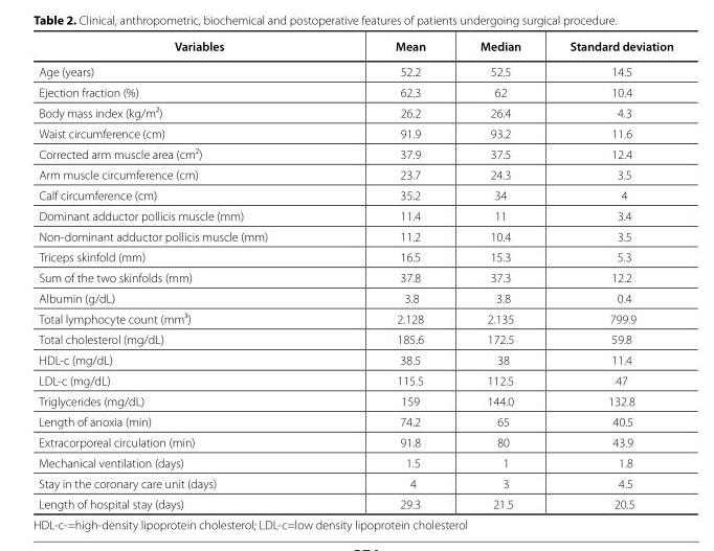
<table><thead><tr><td>Variables</td><td>Mean</td><td>Median</td><td>Standard deviation</td></tr></thead><tbody><tr><td>Age (years)</td><td>52.2</td><td>52.5</td><td>14.5</td></tr><tr><td>Ejection fraction (%)</td><td>62.3</td><td>62</td><td>10.4</td></tr><tr><td>Body mass index (kg/m²)</td><td>26.2</td><td>26.4</td><td>4.3</td></tr><tr><td>Waist circumference (cm)</td><td>91.9</td><td>93.2</td><td>11.6</td></tr><tr><td>Corrected arm muscle area (cm²)</td><td>37.9</td><td>37.5</td><td>12.4</td></tr><tr><td>Arm muscle circumference (cm)</td><td>23.7</td><td>24.3</td><td>3.5</td></tr><tr><td>Calf circumference (cm)</td><td>35.2</td><td>34</td><td>4</td></tr><tr><td>Dominant adductor pollicis muscle (mm)</td><td>11.4</td><td>11</td><td>3.4</td></tr><tr><td>Non-dominant adductor pollicis muscle (mm)</td><td>11.2</td><td>10.4</td><td>3.5</td></tr><tr><td>Triceps skinfold (mm)</td><td>16.5</td><td>15.3</td><td>5.3</td></tr><tr><td>Sum of the two skinfolds (mm)</td><td>37.8</td><td>37.3</td><td>12.2</td></tr><tr><td>Albumin (g/dL)</td><td>3.8</td><td>3.8</td><td>0.4</td></tr><tr><td>Total lymphocyte count (mm³)</td><td>2.128</td><td>2.135</td><td>799.9</td></tr><tr><td>Total cholesterol (mg/dL)</td><td>185.6</td><td>172.5</td><td>59.8</td></tr><tr><td>HDL-c (mg/dL)</td><td>38.5</td><td>38</td><td>11.4</td></tr><tr><td>LDL-c (mg/dL)</td><td>115.5</td><td>112.5</td><td>47</td></tr><tr><td>Triglycerides (mg/dL)</td><td>159</td><td>144.0</td><td>132.8</td></tr><tr><td>Length of anoxia (min)</td><td>74.2</td><td>65</td><td>40.5</td></tr><tr><td>Extracorporeal circulation (min)</td><td>91.8</td><td>80</td><td>43.9</td></tr><tr><td>Mechanical ventilation (days)</td><td>1.5</td><td>1</td><td>1.8</td></tr><tr><td>Stay in the coronary care unit (days)</td><td>4</td><td>3</td><td>4.5</td></tr><tr><td>Length of hospital stay (days)</td><td>29.3</td><td>21.5</td><td>20.5</td></tr></tbody></table>